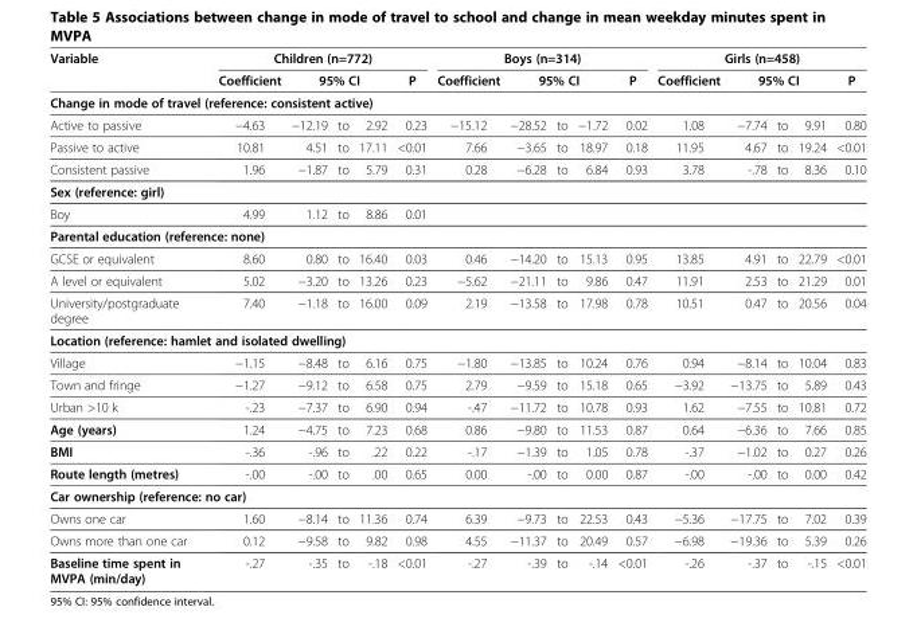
<table><thead><tr><td rowspan="2">Variable</td><td colspan="5">Children (n=772)</td><td colspan="5">Boys (n=314)</td><td colspan="5">Girls (n=458)</td></tr><tr><td>Coefficient</td><td colspan="3">95% CI</td><td>P</td><td>Coefficient</td><td colspan="3">95% CI</td><td>P</td><td>Coefficient</td><td colspan="3">95% CI</td><td>P</td></tr><tr><td colspan="16">Change in mode of travel (reference: consistent active)</td></tr><tr><td>Active to passive</td><td>−4.63</td><td>−12.19</td><td>to</td><td>2.92</td><td>0.23</td><td>−15.12</td><td>−28.52</td><td>to</td><td>−1.72</td><td>0.02</td><td>1.08</td><td>−7.74</td><td>to</td><td>9.91</td><td>0.80</td></tr></thead><tbody><tr><td>Passive to active</td><td>10.81</td><td>4.51</td><td>to</td><td>17.11</td><td>&lt;0.01</td><td>7.66</td><td>−3.65</td><td>to</td><td>18.97</td><td>0.18</td><td>11.95</td><td>4.67</td><td>to</td><td>19.24</td><td>&lt;0.01</td></tr><tr><td>Consistent passive</td><td>1.96</td><td>−1.87</td><td>to</td><td>5.79</td><td>0.31</td><td>0.28</td><td>−6.28</td><td>to</td><td>6.84</td><td>0.93</td><td>3.78</td><td>-.78</td><td>to</td><td>8.36</td><td>0.10</td></tr><tr><td colspan="16">Sex (reference: girl)</td></tr><tr><td>Boy</td><td>4.99</td><td>1.12</td><td>to</td><td>8.86</td><td>0.01</td><td></td><td></td><td></td><td></td><td></td><td></td><td></td><td></td><td></td><td></td></tr><tr><td colspan="16">Parental education (reference: none)</td></tr><tr><td>GCSE or equivalent</td><td>8.60</td><td>0.80</td><td>to</td><td>16.40</td><td>0.03</td><td>0.46</td><td>−14.20</td><td>to</td><td>15.13</td><td>0.95</td><td>13.85</td><td>4.91</td><td>to</td><td>22.79</td><td>&lt;0.01</td></tr><tr><td>A level or equivalent</td><td>5.02</td><td>−3.20</td><td>to</td><td>13.26</td><td>0.23</td><td>−5.62</td><td>−21.11</td><td>to</td><td>9.86</td><td>0.47</td><td>11.91</td><td>2.53</td><td>to</td><td>21.29</td><td>0.01</td></tr><tr><td>University/postgraduate degree</td><td>7.40</td><td>−1.18</td><td>to</td><td>16.00</td><td>0.09</td><td>2.19</td><td>−13.58</td><td>to</td><td>17.98</td><td>0.78</td><td>10.51</td><td>0.47</td><td>to</td><td>20.56</td><td>0.04</td></tr><tr><td colspan="16">Location (reference: hamlet and isolated dwelling)</td></tr><tr><td>Village</td><td>−1.15</td><td>−8.48</td><td>to</td><td>6.16</td><td>0.75</td><td>−1.80</td><td>−13.85</td><td>to</td><td>10.24</td><td>0.76</td><td>0.94</td><td>−8.14</td><td>to</td><td>10.04</td><td>0.83</td></tr><tr><td>Town and fringe</td><td>−1.27</td><td>−9.12</td><td>to</td><td>6.58</td><td>0.75</td><td>2.79</td><td>−9.59</td><td>to</td><td>15.18</td><td>0.65</td><td>−3.92</td><td>−13.75</td><td>to</td><td>5.89</td><td>0.43</td></tr><tr><td>Urban &gt;10 k</td><td>-.23</td><td>−7.37</td><td>to</td><td>6.90</td><td>0.94</td><td>-.47</td><td>−11.72</td><td>to</td><td>10.78</td><td>0.93</td><td>1.62</td><td>−7.55</td><td>to</td><td>10.81</td><td>0.72</td></tr><tr><td>Age (years)</td><td>1.24</td><td>−4.75</td><td>to</td><td>7.23</td><td>0.68</td><td>0.86</td><td>−9.80</td><td>to</td><td>11.53</td><td>0.87</td><td>0.64</td><td>−6.36</td><td>to</td><td>7.66</td><td>0.85</td></tr><tr><td>BMI</td><td>-.36</td><td>-.96</td><td>to</td><td>.22</td><td>0.22</td><td>-.17</td><td>−1.39</td><td>to</td><td>1.05</td><td>0.78</td><td>-.37</td><td>−1.02</td><td>to</td><td>0.27</td><td>0.26</td></tr><tr><td>Route length (metres)</td><td>-.00</td><td>-.00</td><td>to</td><td>.00</td><td>0.65</td><td>0.00</td><td>-.00</td><td>to</td><td>0.00</td><td>0.87</td><td>-.00</td><td>-.00</td><td>to</td><td>0.00</td><td>0.42</td></tr><tr><td colspan="16">Car ownership (reference: no car)</td></tr><tr><td>Owns one car</td><td>1.60</td><td>−8.14</td><td>to</td><td>11.36</td><td>0.74</td><td>6.39</td><td>−9.73</td><td>to</td><td>22.53</td><td>0.43</td><td>−5.36</td><td>−17.75</td><td>to</td><td>7.02</td><td>0.39</td></tr><tr><td>Owns more than one car</td><td>0.12</td><td>−9.58</td><td>to</td><td>9.82</td><td>0.98</td><td>4.55</td><td>−11.37</td><td>to</td><td>20.49</td><td>0.57</td><td>−6.98</td><td>−19.36</td><td>to</td><td>5.39</td><td>0.26</td></tr><tr><td>Baseline time spent in MVPA (min/day)</td><td>-.27</td><td>-.35</td><td>to</td><td>-.18</td><td>&lt;0.01</td><td>-.27</td><td>-.39</td><td>to</td><td>-.14</td><td>&lt;0.01</td><td>-.26</td><td>-.37</td><td>to</td><td>-.15</td><td>&lt;0.01</td></tr></tbody></table>